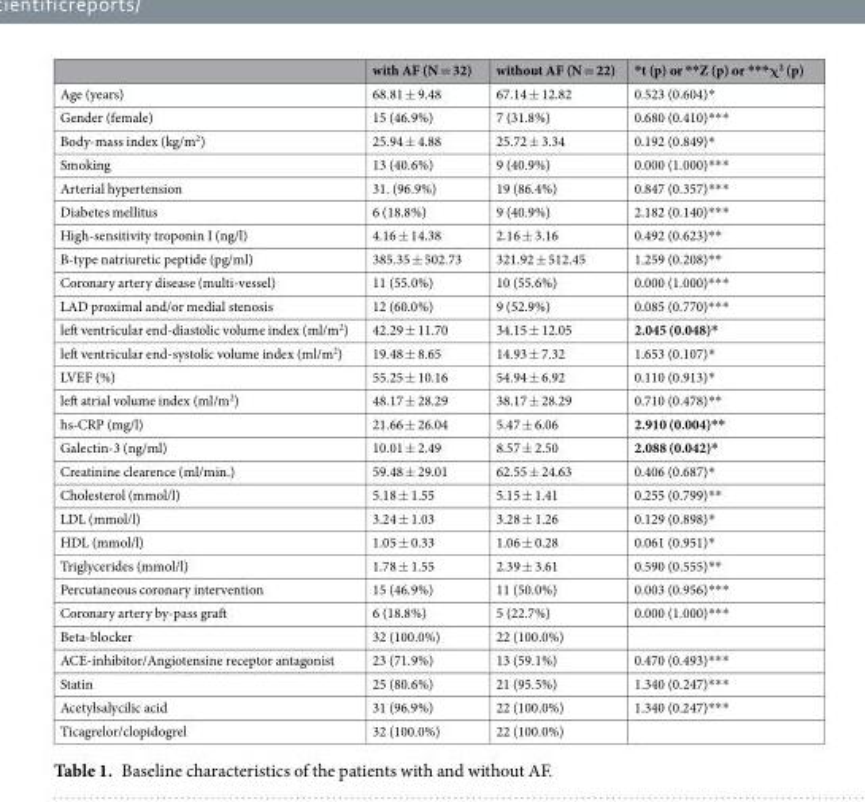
<table><thead><tr><td></td><td>with AF (N = 32)</td><td>without AF (N = 22)</td><td>*t (p) or **Z (p) or ***χ<sup>2</sup> (p)</td></tr></thead><tbody><tr><td>Age (years)</td><td>68.81 ± 9.48</td><td>67.14 ± 12.82</td><td>0.523 (0.604)*</td></tr><tr><td>Gender (female)</td><td>15 (46.9%)</td><td>7 (31.8%)</td><td>0.680 (0.410)***</td></tr><tr><td>Body-mass index (kg/m<sup>2</sup>)</td><td>25.94 ± 4.88</td><td>25.72 ± 3.34</td><td>0.192 (0.849)*</td></tr><tr><td>Smoking</td><td>13 (40.6%)</td><td>9 (40.9%)</td><td>0.000 (1.000)***</td></tr><tr><td>Arterial hypertension</td><td>31. (96.9%)</td><td>19 (86.4%)</td><td>0.847 (0.357)***</td></tr><tr><td>Diabetes mellitus</td><td>6 (18.8%)</td><td>9 (40.9%)</td><td>2.182 (0.140)***</td></tr><tr><td>High-sensitivity troponin I (ng/l)</td><td>4.16 ± 14.38</td><td>2.16 ± 3.16</td><td>0.492 (0.623)**</td></tr><tr><td>B-type natriuretic peptide (pg/ml)</td><td>385.35 ± 502.73</td><td>321.92 ± 512.45</td><td>1.259 (0.208)**</td></tr><tr><td>Coronary artery disease (multi-vessel)</td><td>11 (55.0%)</td><td>10 (55.6%)</td><td>0.000 (1.000)***</td></tr><tr><td>LAD proximal and/or medial stenosis</td><td>12 (60.0%)</td><td>9 (52.9%)</td><td>0.085 (0.770)***</td></tr><tr><td>left ventricular end-diastolic volume index (ml/m<sup>2</sup>)</td><td>42.29 ± 11.70</td><td>34.15 ± 12.05</td><td>2.045 (0.048)*</td></tr><tr><td>left ventricular end-systolic volume index (ml/m<sup>2</sup>)</td><td>19.48 ± 8.65</td><td>14.93 ± 7.32</td><td>1.653 (0.107)*</td></tr><tr><td>LVEF (%)</td><td>55.25 ± 10.16</td><td>54.94 ± 6.92</td><td>0.110 (0.913)*</td></tr><tr><td>left atrial volume index (ml/m<sup>2</sup>)</td><td>48.17 ± 28.29</td><td>38.17 ± 28.29</td><td>0.710 (0.478)**</td></tr><tr><td>hs-CRP (mg/l)</td><td>21.66 ± 26.04</td><td>5.47 ± 6.06</td><td>2.910 (0.004)**</td></tr><tr><td>Galectin-3 (ng/ml)</td><td>10.01 ± 2.49</td><td>8.57 ± 2.50</td><td>2.088 (0.042)*</td></tr><tr><td>Creatinine clearence (ml/min.)</td><td>59.48 ± 29.01</td><td>62.55 ± 24.63</td><td>0.406 (0.687)*</td></tr><tr><td>Cholesterol (mmol/l)</td><td>5.18 ± 1.55</td><td>5.15 ± 1.41</td><td>0.255 (0.799)**</td></tr><tr><td>LDL (mmol/l)</td><td>3.24 ± 1.03</td><td>3.28 ± 1.26</td><td>0.129 (0.898)*</td></tr><tr><td>HDL (mmol/l)</td><td>1.05 ± 0.33</td><td>1.06 ± 0.28</td><td>0.061 (0.951)*</td></tr><tr><td>Triglycerides (mmol/l)</td><td>1.78 ± 1.55</td><td>2.39 ± 3.61</td><td>0.590 (0.555)**</td></tr><tr><td>Percutaneous coronary intervention</td><td>15 (46.9%)</td><td>11 (50.0%)</td><td>0.003 (0.956)***</td></tr><tr><td>Coronary artery by-pass graft</td><td>6 (18.8%)</td><td>5 (22.7%)</td><td>0.000 (1.000)***</td></tr><tr><td>Beta-blocker</td><td>32 (100.0%)</td><td>22 (100.0%)</td><td></td></tr><tr><td>ACE-inhibitor/Angiotensine receptor antagonist</td><td>23 (71.9%)</td><td>13 (59.1%)</td><td>0.470 (0.493)***</td></tr><tr><td>Statin</td><td>25 (80.6%)</td><td>21 (95.5%)</td><td>1.340 (0.247)***</td></tr><tr><td>Acetylsalycilic acid</td><td>31 (96.9%)</td><td>22 (100.0%)</td><td>1.340 (0.247)***</td></tr><tr><td>Ticagrelor/clopidogrel</td><td>32 (100.0%)</td><td>22 (100.0%)</td><td></td></tr></tbody></table>